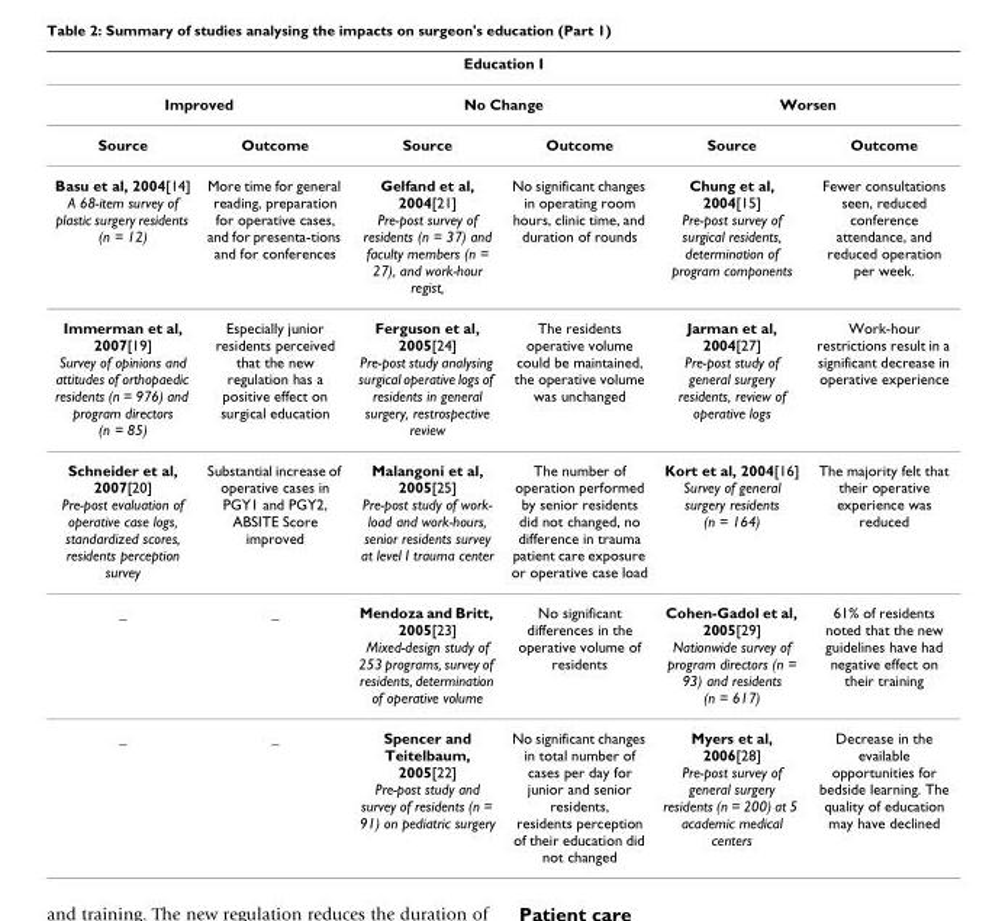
<table><thead><tr><td colspan="6">Education I</td></tr><tr><td colspan="2">Improved</td><td colspan="2">No Change</td><td colspan="2">Worsen</td></tr><tr><td>Source</td><td>Outcome</td><td>Source</td><td>Outcome</td><td>Source</td><td>Outcome</td></tr></thead><tbody><tr><td>Basu et al, 2004[14] A 68-item survey of plastic surgery residents (n = 12)</td><td>More time for general reading, preparation for operative cases, and for presenta-tions and for conferences</td><td>Gelfand et al, 2004[21] Pre-post survey of residents (n = 37) and faculty members (n = 27), and work-hour regist,</td><td>No significant changes in operating room hours, clinic time, and duration of rounds</td><td>Chung et al, 2004[15] Pre-post survey of surgical residents, determination of program components</td><td>Fewer consultations seen, reduced conference attendance, and reduced operation per week.</td></tr><tr><td>Immerman et al, 2007[19] Survey of opinions and attitudes of orthopaedic residents (n = 976) and program directors (n = 85)</td><td>Especially junior residents perceived that the new regulation has a positive effect on surgical education</td><td>Ferguson et al, 2005[24] Pre-post study analysing surgical operative logs of residents in general surgery, restrospective review</td><td>The residents operative volume could be maintained, the operative volume was unchanged</td><td>Jarman et al, 2004[27] Pre-post study of general surgery residents, review of operative logs</td><td>Work-hour restrictions result in a significant decrease in operative experience</td></tr><tr><td>Schneider et al, 2007[20] Pre-post evaluation of operative case logs, standardized scores, residents perception survey</td><td>Substantial increase of operative cases in PGY1 and PGY2, ABSITE Score improved</td><td>Malangoni et al, 2005[25] Pre-post study of work- load and work-hours, senior residents survey at level I trauma center</td><td>The number of operation performed by senior residents did not changed, no difference in trauma patient care exposure or operative case load</td><td>Kort et al, 2004[16] Survey of general surgery residents (n = 164)</td><td>The majority felt that their operative experience was reduced</td></tr><tr><td>_</td><td>_</td><td>Mendoza and Britt, 2005[23] Mixed-design study of 253 programs, survey of residents, determination of operative volume</td><td>No significant differences in the operative volume of residents</td><td>Cohen-Gadol et al, 2005[29] Nationwide survey of program directors (n = 93) and residents (n = 617)</td><td>61% of residents noted that the new guidelines have had negative effect on their training</td></tr><tr><td>_</td><td>_</td><td>Spencer and Teitelbaum, 2005[22] Pre-post study and survey of residents (n = 91) on pediatric surgery</td><td>No significant changes in total number of cases per day for junior and senior residents, residents perception of their education did not changed</td><td>Myers et al, 2006[28] Pre-post survey of general surgery residents (n = 200) at 5 academic medical centers</td><td>Decrease in the evailable opportunities for bedside learning. The quality of education may have declined</td></tr></tbody></table>